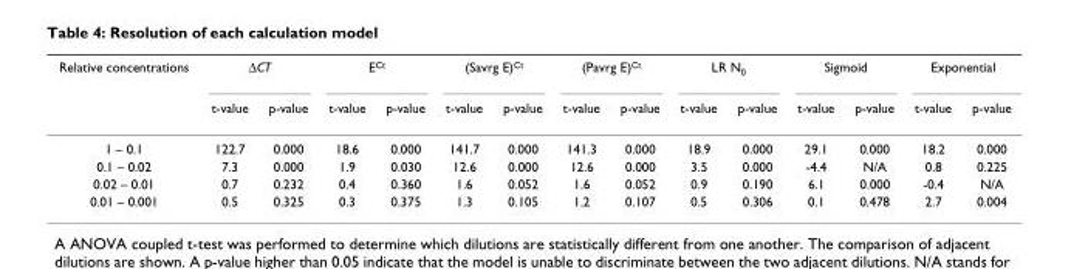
<table><thead><tr><td rowspan="2">Relative concentrations</td><td colspan="2">ΔCT</td><td colspan="2">E<sup>Ct</sup></td><td colspan="2">(Savrg E)<sup>Ct</sup></td><td colspan="2">(Pavrg E)<sup>Ct</sup></td><td colspan="2">LR N<sub>0</sub></td><td colspan="2">Sigmoid</td><td colspan="2">Exponential</td></tr><tr><td>t-value</td><td>p-value</td><td>t-value</td><td>p-value</td><td>t-value</td><td>p-value</td><td>t-value</td><td>p-value</td><td>t-value</td><td>p-value</td><td>t-value</td><td>p-value</td><td>t-value</td><td>p-value</td></tr></thead><tbody><tr><td>1 – 0.1</td><td>122.7</td><td>0.000</td><td>18.6</td><td>0.000</td><td>141.7</td><td>0.000</td><td>141.3</td><td>0.000</td><td>18.9</td><td>0.000</td><td>29.1</td><td>0.000</td><td>18.2</td><td>0.000</td></tr><tr><td>0.1 – 0.02</td><td>7.3</td><td>0.000</td><td>1.9</td><td>0.030</td><td>12.6</td><td>0.000</td><td>12.6</td><td>0.000</td><td>3.5</td><td>0.000</td><td>-4.4</td><td>N/A</td><td>0.8</td><td>0.225</td></tr><tr><td>0.02 – 0.01</td><td>0.7</td><td>0.232</td><td>0.4</td><td>0.360</td><td>1.6</td><td>0.052</td><td>1.6</td><td>0.052</td><td>0.9</td><td>0.190</td><td>6.1</td><td>0.000</td><td>-0.4</td><td>N/A</td></tr><tr><td>0.01 – 0.001</td><td>0.5</td><td>0.325</td><td>0.3</td><td>0.375</td><td>1.3</td><td>0.105</td><td>1.2</td><td>0.107</td><td>0.5</td><td>0.306</td><td>0.1</td><td>0.478</td><td>2.7</td><td>0.004</td></tr></tbody></table>